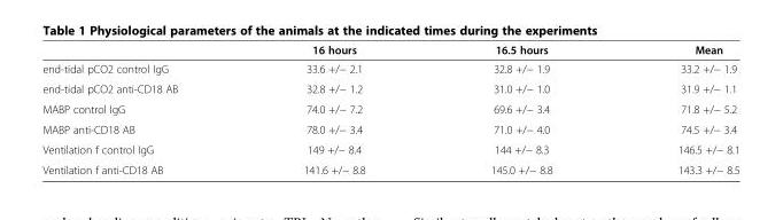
<table><thead><tr><td></td><td>16 hours</td><td>16.5 hours</td><td>Mean</td></tr></thead><tbody><tr><td>end-tidal pCO2 control IgG</td><td>33.6 +/− 2.1</td><td>32.8 +/− 1.9</td><td>33.2 +/− 1.9</td></tr><tr><td>end-tidal pCO2 anti-CD18 AB</td><td>32.8 +/− 1.2</td><td>31.0 +/− 1.0</td><td>31.9 +/− 1.1</td></tr><tr><td>MABP control IgG</td><td>74.0 +/− 7.2</td><td>69.6 +/− 3.4</td><td>71.8 +/− 5.2</td></tr><tr><td>MABP anti-CD18 AB</td><td>78.0 +/− 3.4</td><td>71.0 +/− 4.0</td><td>74.5 +/− 3.4</td></tr><tr><td>Ventilation f control IgG</td><td>149 +/− 8.4</td><td>144 +/− 8.3</td><td>146.5 +/− 8.1</td></tr><tr><td>Ventilation f anti-CD18 AB</td><td>141.6 +/− 8.8</td><td>145.0 +/− 8.8</td><td>143.3 +/− 8.5</td></tr></tbody></table>